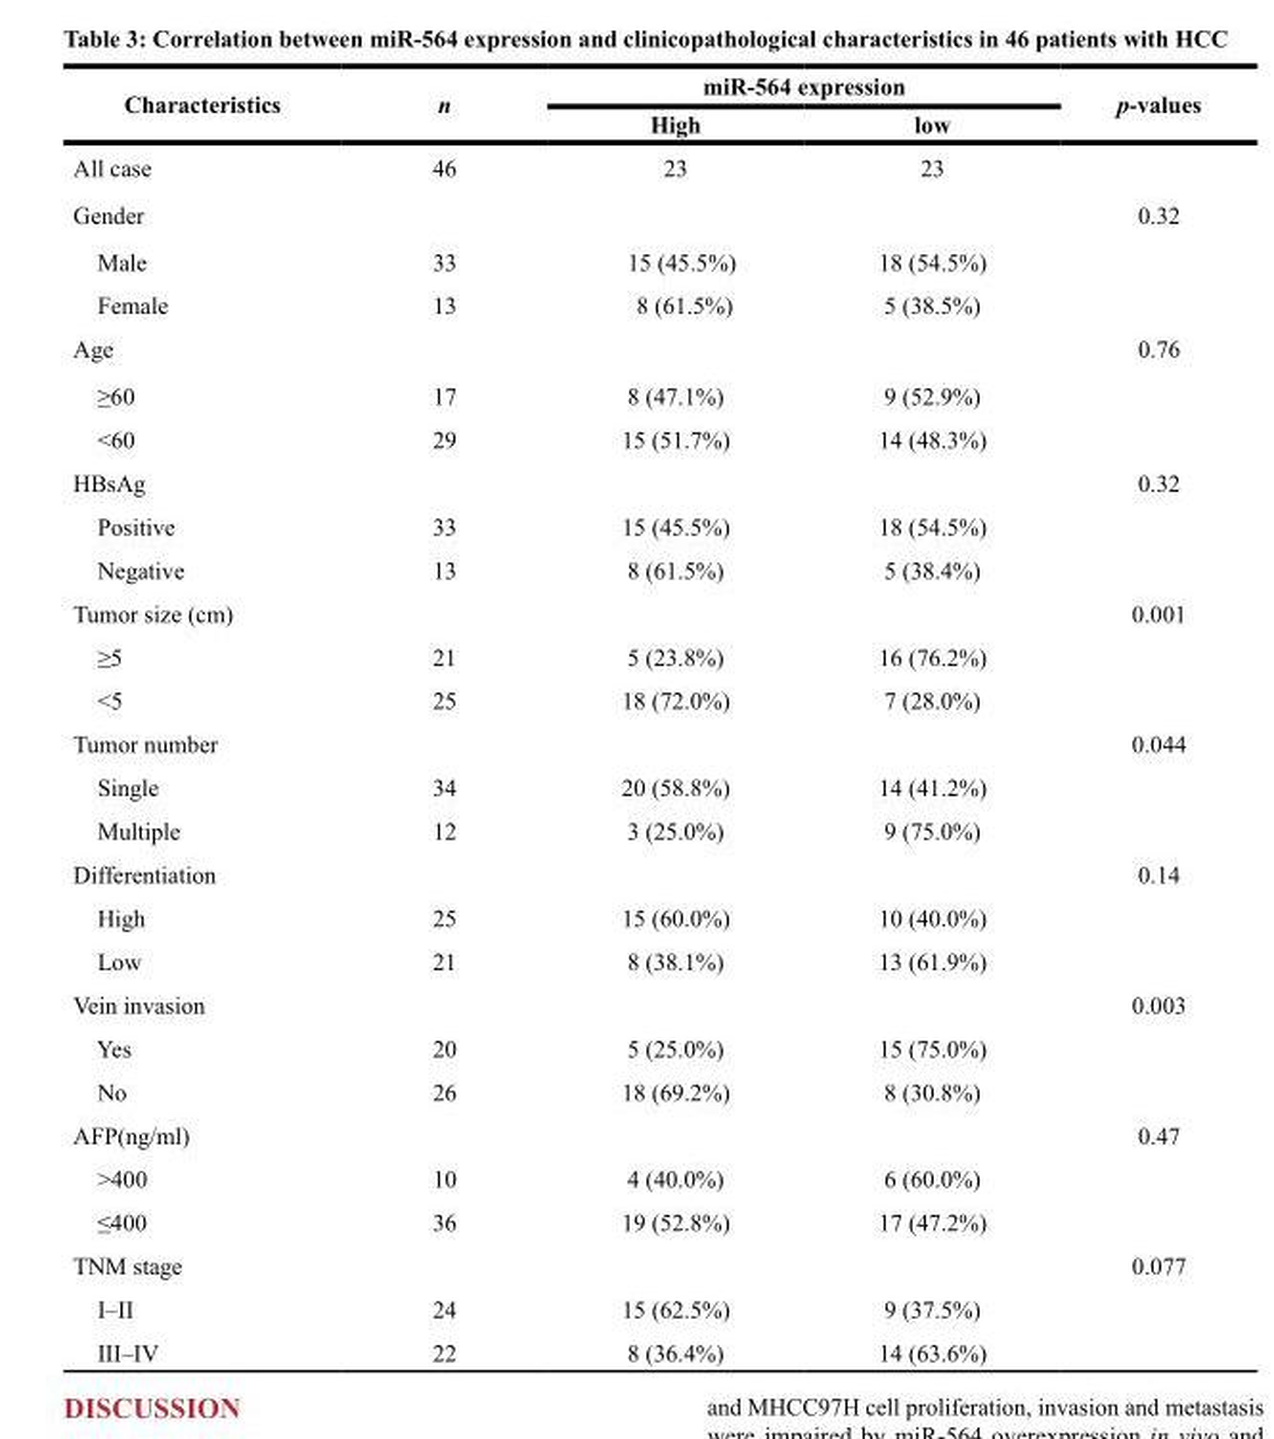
<table><thead><tr><td rowspan="2">Characteristics</td><td rowspan="2">n</td><td colspan="2">miR-564 expression</td><td rowspan="2">p-values</td></tr><tr><td>High</td><td>low</td></tr></thead><tbody><tr><td>All case</td><td>46</td><td>23</td><td>23</td><td></td></tr><tr><td>Gender</td><td></td><td></td><td></td><td>0.32</td></tr><tr><td>Male</td><td>33</td><td>15 (45.5%)</td><td>18 (54.5%)</td><td></td></tr><tr><td>Female</td><td>13</td><td>8 (61.5%)</td><td>5 (38.5%)</td><td></td></tr><tr><td>Age</td><td></td><td></td><td></td><td>0.76</td></tr><tr><td>≥60</td><td>17</td><td>8 (47.1%)</td><td>9 (52.9%)</td><td></td></tr><tr><td>&lt;60</td><td>29</td><td>15 (51.7%)</td><td>14 (48.3%)</td><td></td></tr><tr><td>HBsAg</td><td></td><td></td><td></td><td>0.32</td></tr><tr><td>Positive</td><td>33</td><td>15 (45.5%)</td><td>18 (54.5%)</td><td></td></tr><tr><td>Negative</td><td>13</td><td>8 (61.5%)</td><td>5 (38.4%)</td><td></td></tr><tr><td>Tumor size (cm)</td><td></td><td></td><td></td><td>0.001</td></tr><tr><td>≥5</td><td>21</td><td>5 (23.8%)</td><td>16 (76.2%)</td><td></td></tr><tr><td>&lt;5</td><td>25</td><td>18 (72.0%)</td><td>7 (28.0%)</td><td></td></tr><tr><td>Tumor number</td><td></td><td></td><td></td><td>0.044</td></tr><tr><td>Single</td><td>34</td><td>20 (58.8%)</td><td>14 (41.2%)</td><td></td></tr><tr><td>Multiple</td><td>12</td><td>3 (25.0%)</td><td>9 (75.0%)</td><td></td></tr><tr><td>Differentiation</td><td></td><td></td><td></td><td>0.14</td></tr><tr><td>High</td><td>25</td><td>15 (60.0%)</td><td>10 (40.0%)</td><td></td></tr><tr><td>Low</td><td>21</td><td>8 (38.1%)</td><td>13 (61.9%)</td><td></td></tr><tr><td>Vein invasion</td><td></td><td></td><td></td><td>0.003</td></tr><tr><td>Yes</td><td>20</td><td>5 (25.0%)</td><td>15 (75.0%)</td><td></td></tr><tr><td>No</td><td>26</td><td>18 (69.2%)</td><td>8 (30.8%)</td><td></td></tr><tr><td>AFP(ng/ml)</td><td></td><td></td><td></td><td>0.47</td></tr><tr><td>&gt;400</td><td>10</td><td>4 (40.0%)</td><td>6 (60.0%)</td><td></td></tr><tr><td>≤400</td><td>36</td><td>19 (52.8%)</td><td>17 (47.2%)</td><td></td></tr><tr><td>TNM stage</td><td></td><td></td><td></td><td>0.077</td></tr><tr><td>I–II</td><td>24</td><td>15 (62.5%)</td><td>9 (37.5%)</td><td></td></tr><tr><td>III–IV</td><td>22</td><td>8 (36.4%)</td><td>14 (63.6%)</td><td></td></tr></tbody></table>